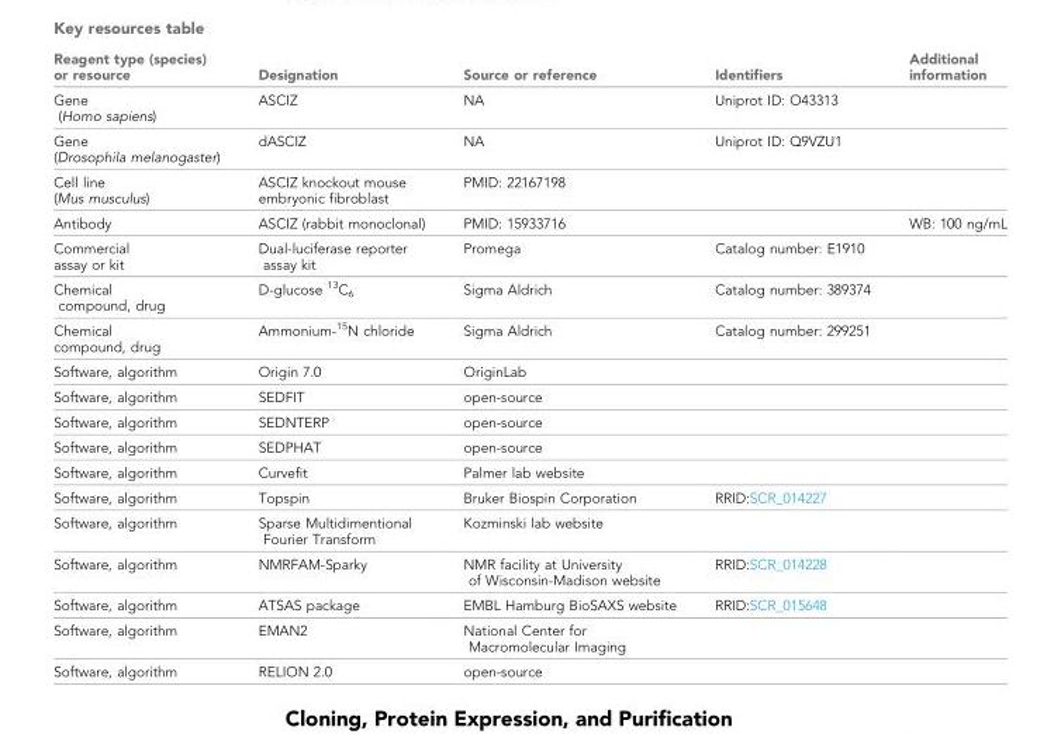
<table><thead><tr><td>Reagent type (species) or resource</td><td>Designation</td><td>Source or reference</td><td>Identifiers</td><td>Additional information</td></tr></thead><tbody><tr><td>Gene (Homo sapiens)</td><td>ASCIZ</td><td>NA</td><td>Uniprot ID: O43313</td><td></td></tr><tr><td>Gene (Drosophila melanogaster)</td><td>dASCIZ</td><td>NA</td><td>Uniprot ID: Q9VZU1</td><td></td></tr><tr><td>Cell line (Mus musculus)</td><td>ASCIZ knockout mouse embryonic fibroblast</td><td>PMID: 22167198</td><td></td><td></td></tr><tr><td>Antibody</td><td>ASCIZ (rabbit monoclonal)</td><td>PMID: 15933716</td><td></td><td>WB: 100 ng/mL</td></tr><tr><td>Commercial assay or kit</td><td>Dual-luciferase reporter assay kit</td><td>Promega</td><td>Catalog number: E1910</td><td></td></tr><tr><td>Chemical compound, drug</td><td>D-glucose <sup>13</sup>C<sub>6</sub></td><td>Sigma Aldrich</td><td>Catalog number: 389374</td><td></td></tr><tr><td>Chemical compound, drug</td><td>Ammonium-<sup>15</sup>N chloride</td><td>Sigma Aldrich</td><td>Catalog number: 299251</td><td></td></tr><tr><td>Software, algorithm</td><td>Origin 7.0</td><td>OriginLab</td><td></td><td></td></tr><tr><td>Software, algorithm</td><td>SEDFIT</td><td>open-source</td><td></td><td></td></tr><tr><td>Software, algorithm</td><td>SEDNTERP</td><td>open-source</td><td></td><td></td></tr><tr><td>Software, algorithm</td><td>SEDPHAT</td><td>open-source</td><td></td><td></td></tr><tr><td>Software, algorithm</td><td>Curvefit</td><td>Palmer lab website</td><td></td><td></td></tr><tr><td>Software, algorithm</td><td>Topspin</td><td>Bruker Biospin Corporation</td><td>RRID:SCR_014227</td><td></td></tr><tr><td>Software, algorithm</td><td>Sparse Multidimentional Fourier Transform</td><td>Kozminski lab website</td><td></td><td></td></tr><tr><td>Software, algorithm</td><td>NMRFAM-Sparky</td><td>NMR facility at University of Wisconsin-Madison website</td><td>RRID:SCR_014228</td><td></td></tr><tr><td>Software, algorithm</td><td>ATSAS package</td><td>EMBL Hamburg BioSAXS website</td><td>RRID:SCR_015648</td><td></td></tr><tr><td>Software, algorithm</td><td>EMAN2</td><td>National Center for Macromolecular Imaging</td><td></td><td></td></tr><tr><td>Software, algorithm</td><td>RELION 2.0</td><td>open-source</td><td></td><td></td></tr></tbody></table>